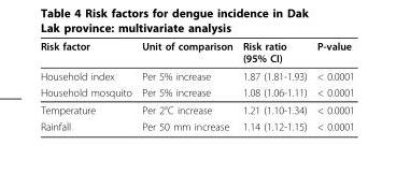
<table><thead><tr><td>Risk factor</td><td>Unit of comparison</td><td>Risk ratio (95% CI)</td><td>P-value</td></tr></thead><tbody><tr><td>Household index</td><td>Per 5% increase</td><td>1.87 (1.81-1.93)</td><td>&lt; 0.0001</td></tr><tr><td>Household mosquito</td><td>Per 5% increase</td><td>1.08 (1.06-1.11)</td><td>&lt; 0.0001</td></tr><tr><td>Temperature</td><td>Per 2°C increase</td><td>1.21 (1.10-1.34)</td><td>&lt; 0.0001</td></tr><tr><td>Rainfall</td><td>Per 50 mm increase</td><td>1.14 (1.12-1.15)</td><td>&lt; 0.0001</td></tr></tbody></table>